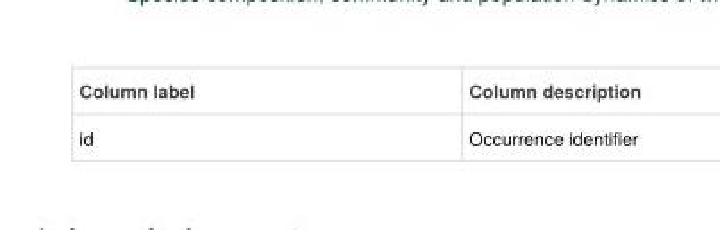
<table><thead><tr><td>Column label</td><td>Column description</td></tr></thead><tbody><tr><td>id</td><td>Occurrence identifier</td></tr></tbody></table>